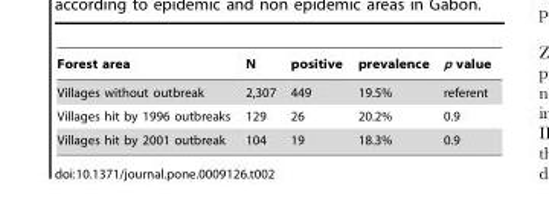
<table><thead><tr><td>Forest area</td><td>N</td><td>positive</td><td>prevalence</td><td>p value</td></tr></thead><tbody><tr><td>Villages without outbreak</td><td>2,307</td><td>449</td><td>19.5%</td><td>referent</td></tr><tr><td>Villages hit by 1996 outbreaks</td><td>129</td><td>26</td><td>20.2%</td><td>0.9</td></tr><tr><td>Villages hit by 2001 outbreak</td><td>104</td><td>19</td><td>18.3%</td><td>0.9</td></tr></tbody></table>